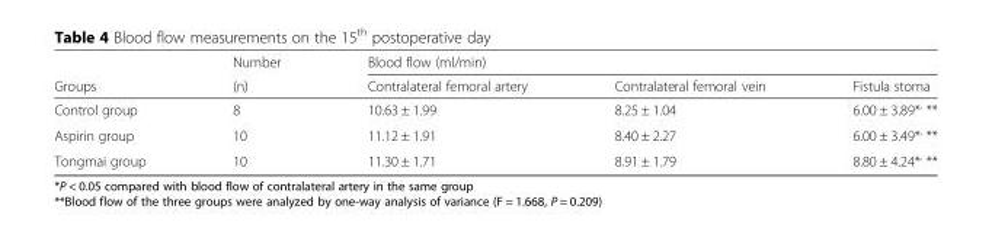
<table><thead><tr><td rowspan="2">Groups</td><td rowspan="2">Number (n)</td><td colspan="3">Blood flow (ml/min)</td></tr><tr><td>Contralateral femoral artery</td><td>Contralateral femoral vein</td><td>Fistula stoma</td></tr></thead><tbody><tr><td>Control group</td><td>8</td><td>10.63 ± 1.99</td><td>8.25 ± 1.04</td><td>6.00 ± 3.89*<sup>,</sup> **</td></tr><tr><td>Aspirin group</td><td>10</td><td>11.12 ± 1.91</td><td>8.40 ± 2.27</td><td>6.00 ± 3.49*<sup>,</sup> **</td></tr><tr><td>Tongmai group</td><td>10</td><td>11.30 ± 1.71</td><td>8.91 ± 1.79</td><td>8.80 ± 4.24*<sup>,</sup> **</td></tr></tbody></table>